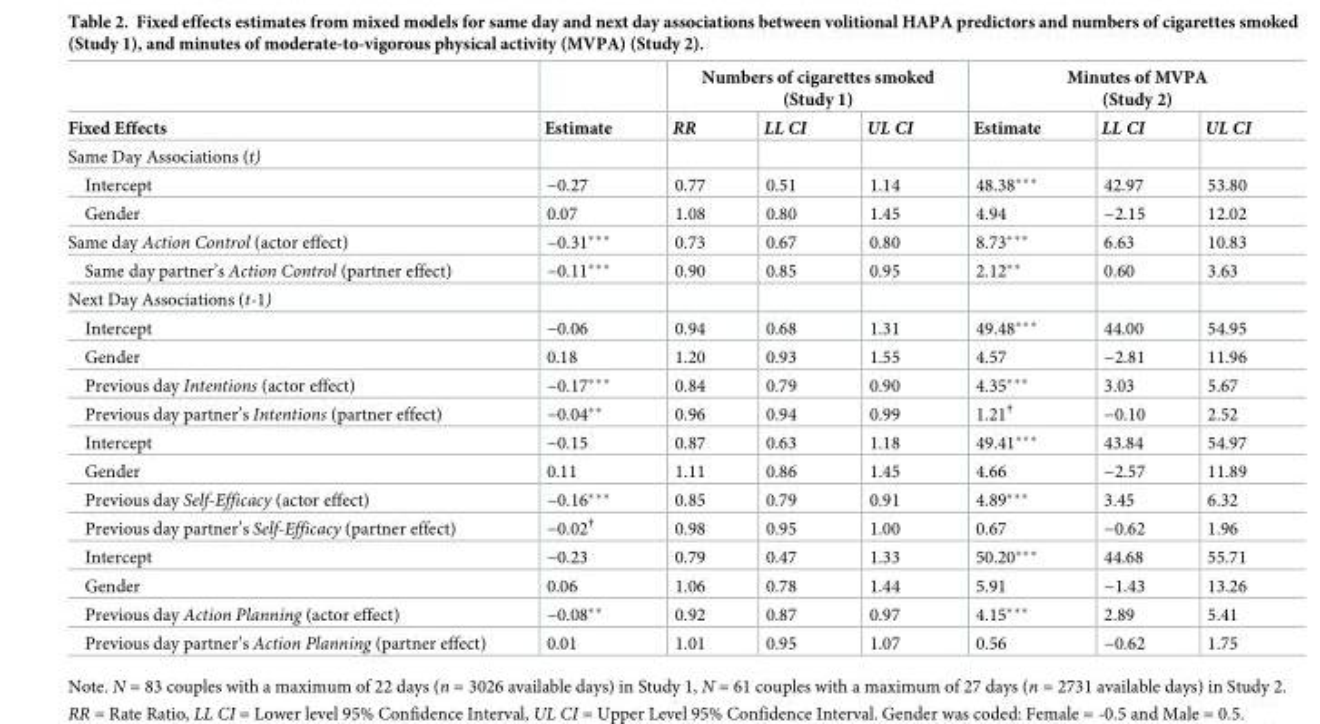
<table><thead><tr><td rowspan="2">Fixed Effects</td><td rowspan="2">Estimate</td><td colspan="3">Numbers of cigarettes smoked (Study 1)</td><td colspan="3">Minutes of MVPA (Study 2)</td></tr><tr><td>RR</td><td>LL CI</td><td>UL CI</td><td>Estimate</td><td>LL CI</td><td>UL CI</td></tr></thead><tbody><tr><td colspan="8">Same Day Associations (t)</td></tr><tr><td>Intercept</td><td>−0.27</td><td>0.77</td><td>0.51</td><td>1.14</td><td>48.38***</td><td>42.97</td><td>53.80</td></tr><tr><td>Gender</td><td>0.07</td><td>1.08</td><td>0.80</td><td>1.45</td><td>4.94</td><td>−2.15</td><td>12.02</td></tr><tr><td>Same day Action Control (actor effect)</td><td>−0.31***</td><td>0.73</td><td>0.67</td><td>0.80</td><td>8.73***</td><td>6.63</td><td>10.83</td></tr><tr><td>Same day partner’s Action Control (partner effect)</td><td>−0.11***</td><td>0.90</td><td>0.85</td><td>0.95</td><td>2.12**</td><td>0.60</td><td>3.63</td></tr><tr><td colspan="8">Next Day Associations (t-1)</td></tr><tr><td>Intercept</td><td>−0.06</td><td>0.94</td><td>0.68</td><td>1.31</td><td>49.48***</td><td>44.00</td><td>54.95</td></tr><tr><td>Gender</td><td>0.18</td><td>1.20</td><td>0.93</td><td>1.55</td><td>4.57</td><td>−2.81</td><td>11.96</td></tr><tr><td>Previous day Intentions (actor effect)</td><td>−0.17***</td><td>0.84</td><td>0.79</td><td>0.90</td><td>4.35***</td><td>3.03</td><td>5.67</td></tr><tr><td>Previous day partner’s Intentions (partner effect)</td><td>−0.04**</td><td>0.96</td><td>0.94</td><td>0.99</td><td>1.21<sup>†</sup></td><td>−0.10</td><td>2.52</td></tr><tr><td>Intercept</td><td>−0.15</td><td>0.87</td><td>0.63</td><td>1.18</td><td>49.41***</td><td>43.84</td><td>54.97</td></tr><tr><td>Gender</td><td>0.11</td><td>1.11</td><td>0.86</td><td>1.45</td><td>4.66</td><td>−2.57</td><td>11.89</td></tr><tr><td>Previous day Self-Efficacy (actor effect)</td><td>−0.16***</td><td>0.85</td><td>0.79</td><td>0.91</td><td>4.89***</td><td>3.45</td><td>6.32</td></tr><tr><td>Previous day partner’s Self-Efficacy (partner effect)</td><td>−0.02<sup>†</sup></td><td>0.98</td><td>0.95</td><td>1.00</td><td>0.67</td><td>−0.62</td><td>1.96</td></tr><tr><td>Intercept</td><td>−0.23</td><td>0.79</td><td>0.47</td><td>1.33</td><td>50.20***</td><td>44.68</td><td>55.71</td></tr><tr><td>Gender</td><td>0.06</td><td>1.06</td><td>0.78</td><td>1.44</td><td>5.91</td><td>−1.43</td><td>13.26</td></tr><tr><td>Previous day Action Planning (actor effect)</td><td>−0.08**</td><td>0.92</td><td>0.87</td><td>0.97</td><td>4.15***</td><td>2.89</td><td>5.41</td></tr><tr><td>Previous day partner’s Action Planning (partner effect)</td><td>0.01</td><td>1.01</td><td>0.95</td><td>1.07</td><td>0.56</td><td>−0.62</td><td>1.75</td></tr></tbody></table>